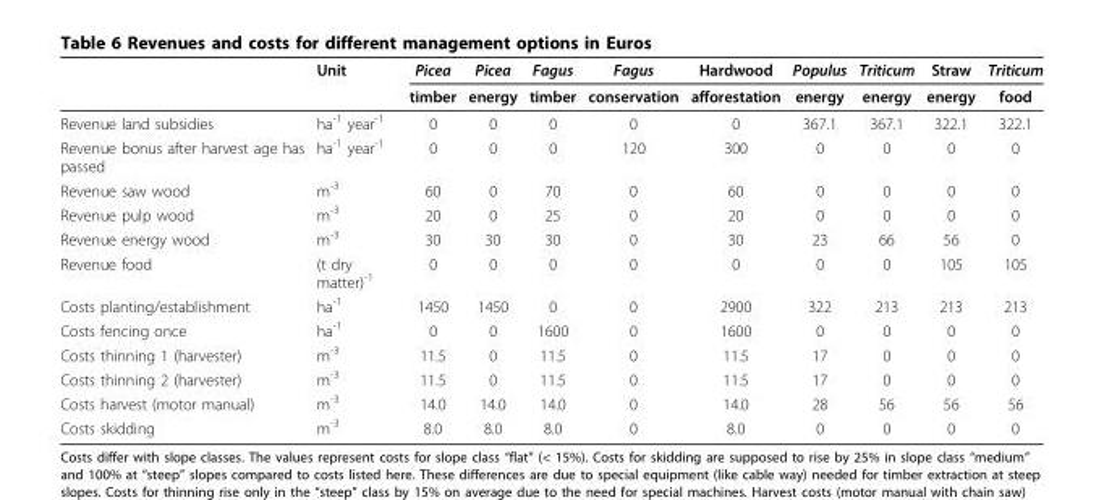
<table><thead><tr><td rowspan="2"></td><td rowspan="2">Unit</td><td rowspan="2">Picea timber</td><td rowspan="2">Picea energy</td><td rowspan="2">Fagus timber</td><td rowspan="2">Fagus conservation</td><td rowspan="2">Hardwood afforestation</td><td rowspan="2">Populus energy</td><td rowspan="2">Triticum energy</td><td rowspan="2">Straw energy</td><td rowspan="2">Triticum food</td></tr><tr></tr></thead><tbody><tr><td>Revenue land subsidies</td><td>ha<sup>-1</sup> year<sup>-1</sup></td><td>0</td><td>0</td><td>0</td><td>0</td><td>0</td><td>367.1</td><td>367.1</td><td>322.1</td><td>322.1</td></tr><tr><td>Revenue bonus after harvest age has passed</td><td>ha<sup>-1</sup> year<sup>-1</sup></td><td>0</td><td>0</td><td>0</td><td>120</td><td>300</td><td>0</td><td>0</td><td>0</td><td>0</td></tr><tr><td>Revenue saw wood</td><td>m<sup>-3</sup></td><td>60</td><td>0</td><td>70</td><td>0</td><td>60</td><td>0</td><td>0</td><td>0</td><td>0</td></tr><tr><td>Revenue pulp wood</td><td>m<sup>-3</sup></td><td>20</td><td>0</td><td>25</td><td>0</td><td>20</td><td>0</td><td>0</td><td>0</td><td>0</td></tr><tr><td>Revenue energy wood</td><td>m<sup>-3</sup></td><td>30</td><td>30</td><td>30</td><td>0</td><td>30</td><td>23</td><td>66</td><td>56</td><td>0</td></tr><tr><td>Revenue food</td><td>(t dry matter)<sup>-1</sup></td><td>0</td><td>0</td><td>0</td><td>0</td><td>0</td><td>0</td><td>0</td><td>105</td><td>105</td></tr><tr><td>Costs planting/establishment</td><td>ha<sup>-1</sup></td><td>1450</td><td>1450</td><td>0</td><td>0</td><td>2900</td><td>322</td><td>213</td><td>213</td><td>213</td></tr><tr><td>Costs fencing once</td><td>ha<sup>-1</sup></td><td>0</td><td>0</td><td>1600</td><td>0</td><td>1600</td><td>0</td><td>0</td><td>0</td><td>0</td></tr><tr><td>Costs thinning 1 (harvester)</td><td>m<sup>-3</sup></td><td>11.5</td><td>0</td><td>11.5</td><td>0</td><td>11.5</td><td>17</td><td>0</td><td>0</td><td>0</td></tr><tr><td>Costs thinning 2 (harvester)</td><td>m<sup>-3</sup></td><td>11.5</td><td>0</td><td>11.5</td><td>0</td><td>11.5</td><td>17</td><td>0</td><td>0</td><td>0</td></tr><tr><td>Costs harvest (motor manual)</td><td>m<sup>-3</sup></td><td>14.0</td><td>14.0</td><td>14.0</td><td>0</td><td>14.0</td><td>28</td><td>56</td><td>56</td><td>56</td></tr><tr><td>Costs skidding</td><td>m<sup>-3</sup></td><td>8.0</td><td>8.0</td><td>8.0</td><td>0</td><td>8.0</td><td>0</td><td>0</td><td>0</td><td>0</td></tr></tbody></table>